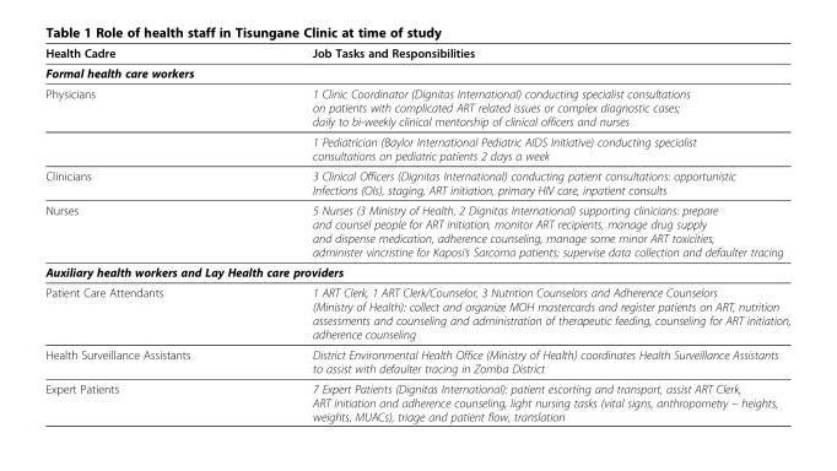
<table><thead><tr><td>Health Cadre</td><td>Job Tasks and Responsibilities</td></tr></thead><tbody><tr><td colspan="2">Formal health care workers</td></tr><tr><td rowspan="2">Physicians</td><td>1 Clinic Coordinator (Dignitas International) conducting specialist consultations on patients with complicated ART related issues or complex diagnostic cases; daily to bi-weekly clinical mentorship of clinical officers and nurses</td></tr><tr><td>1 Pediatrician (Baylor International Pediatric AIDS Initiative) conducting specialist consultations on pediatric patients 2 days a week</td></tr><tr><td>Clinicians</td><td>3 Clinical Officers (Dignitas International) conducting patient consultations: opportunistic Infections (OIs), staging, ART initiation, primary HIV care, inpatient consults</td></tr><tr><td>Nurses</td><td>5 Nurses (3 Ministry of Health, 2 Dignitas International) supporting clinicians: prepare and counsel people for ART initiation, monitor ART recipients, manage drug supply and dispense medication, adherence counseling, manage some minor ART toxicities, administer vincristine for Kaposi’s Sarcoma patients; supervise data collection and defaulter tracing</td></tr><tr><td colspan="2">Auxiliary health workers and Lay Health care providers</td></tr><tr><td>Patient Care Attendants</td><td>1 ART Clerk, 1 ART Clerk/Counselor, 3 Nutrition Counselors and Adherence Counselors (Ministry of Health): collect and organize MOH mastercards and register patients on ART, nutrition assessments and counseling and administration of therapeutic feeding, counseling for ART initiation, adherence counseling</td></tr><tr><td>Health Surveillance Assistants</td><td>District Environmental Health Office (Ministry of Health) coordinates Health Surveillance Assistants to assist with defaulter tracing in Zomba District</td></tr><tr><td>Expert Patients</td><td>7 Expert Patients (Dignitas International): patient escorting and transport, assist ART Clerk, ART initiation and adherence counseling, light nursing tasks (vital signs, anthropometry – heights, weights, MUACs), triage and patient flow, translation</td></tr></tbody></table>